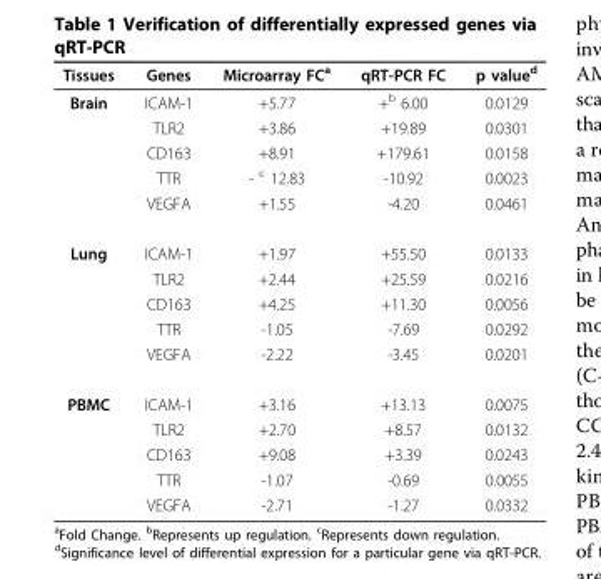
<table><thead><tr><td>Tissues</td><td>Genes</td><td>Microarray FC<sup>a</sup></td><td>qRT-PCR FC</td><td>p value<sup>d</sup></td></tr></thead><tbody><tr><td rowspan="5">Brain</td><td>ICAM-1</td><td>+5.77</td><td>+<sup>b</sup> 6.00</td><td>0.0129</td></tr><tr><td>TLR2</td><td>+3.86</td><td>+19.89</td><td>0.0301</td></tr><tr><td>CD163</td><td>+8.91</td><td>+179.61</td><td>0.0158</td></tr><tr><td>TTR</td><td>- <sup>c</sup> 12.83</td><td>-10.92</td><td>0.0023</td></tr><tr><td>VEGFA</td><td>+1.55</td><td>-4.20</td><td>0.0461</td></tr><tr><td rowspan="5">Lung</td><td>ICAM-1</td><td>+1.97</td><td>+55.50</td><td>0.0133</td></tr><tr><td>TLR2</td><td>+2.44</td><td>+25.59</td><td>0.0216</td></tr><tr><td>CD163</td><td>+4.25</td><td>+11.30</td><td>0.0056</td></tr><tr><td>TTR</td><td>-1.05</td><td>-7.69</td><td>0.0292</td></tr><tr><td>VEGFA</td><td>-2.22</td><td>-3.45</td><td>0.0201</td></tr><tr><td rowspan="5">PBMC</td><td>ICAM-1</td><td>+3.16</td><td>+13.13</td><td>0.0075</td></tr><tr><td>TLR2</td><td>+2.70</td><td>+8.57</td><td>0.0132</td></tr><tr><td>CD163</td><td>+9.08</td><td>+3.39</td><td>0.0243</td></tr><tr><td>TTR</td><td>-1.07</td><td>-0.69</td><td>0.0055</td></tr><tr><td>VEGFA</td><td>-2.71</td><td>-1.27</td><td>0.0332</td></tr></tbody></table>